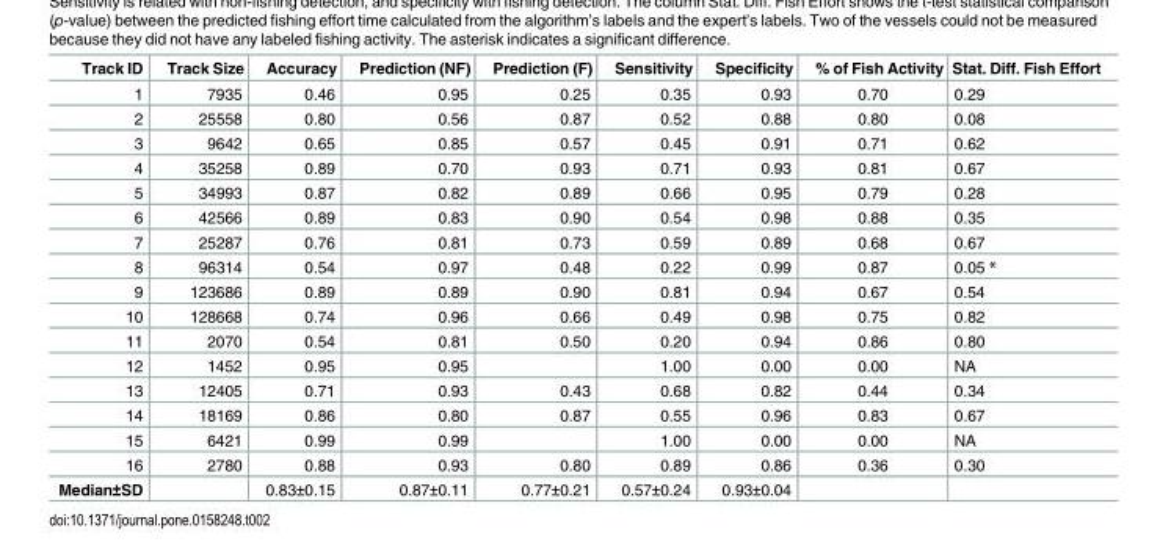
<table><thead><tr><td>Track ID</td><td>Track Size</td><td>Accuracy</td><td>Prediction (NF)</td><td>Prediction (F)</td><td>Sensitivity</td><td>Specificity</td><td>% of Fish Activity</td><td>Stat. Diff. Fish Effort</td></tr></thead><tbody><tr><td>1</td><td>7935</td><td>0.46</td><td>0.95</td><td>0.25</td><td>0.35</td><td>0.93</td><td>0.70</td><td>0.29</td></tr><tr><td>2</td><td>25558</td><td>0.80</td><td>0.56</td><td>0.87</td><td>0.52</td><td>0.88</td><td>0.80</td><td>0.08</td></tr><tr><td>3</td><td>9642</td><td>0.65</td><td>0.85</td><td>0.57</td><td>0.45</td><td>0.91</td><td>0.71</td><td>0.62</td></tr><tr><td>4</td><td>35258</td><td>0.89</td><td>0.70</td><td>0.93</td><td>0.71</td><td>0.93</td><td>0.81</td><td>0.67</td></tr><tr><td>5</td><td>34993</td><td>0.87</td><td>0.82</td><td>0.89</td><td>0.66</td><td>0.95</td><td>0.79</td><td>0.28</td></tr><tr><td>6</td><td>42566</td><td>0.89</td><td>0.83</td><td>0.90</td><td>0.54</td><td>0.98</td><td>0.88</td><td>0.35</td></tr><tr><td>7</td><td>25287</td><td>0.76</td><td>0.81</td><td>0.73</td><td>0.59</td><td>0.89</td><td>0.68</td><td>0.67</td></tr><tr><td>8</td><td>96314</td><td>0.54</td><td>0.97</td><td>0.48</td><td>0.22</td><td>0.99</td><td>0.87</td><td>0.05 *</td></tr><tr><td>9</td><td>123686</td><td>0.89</td><td>0.89</td><td>0.90</td><td>0.81</td><td>0.94</td><td>0.67</td><td>0.54</td></tr><tr><td>10</td><td>128668</td><td>0.74</td><td>0.96</td><td>0.66</td><td>0.49</td><td>0.98</td><td>0.75</td><td>0.82</td></tr><tr><td>11</td><td>2070</td><td>0.54</td><td>0.81</td><td>0.50</td><td>0.20</td><td>0.94</td><td>0.86</td><td>0.80</td></tr><tr><td>12</td><td>1452</td><td>0.95</td><td>0.95</td><td></td><td>1.00</td><td>0.00</td><td>0.00</td><td>NA</td></tr><tr><td>13</td><td>12405</td><td>0.71</td><td>0.93</td><td>0.43</td><td>0.68</td><td>0.82</td><td>0.44</td><td>0.34</td></tr><tr><td>14</td><td>18169</td><td>0.86</td><td>0.80</td><td>0.87</td><td>0.55</td><td>0.96</td><td>0.83</td><td>0.67</td></tr><tr><td>15</td><td>6421</td><td>0.99</td><td>0.99</td><td></td><td>1.00</td><td>0.00</td><td>0.00</td><td>NA</td></tr><tr><td>16</td><td>2780</td><td>0.88</td><td>0.93</td><td>0.80</td><td>0.89</td><td>0.86</td><td>0.36</td><td>0.30</td></tr><tr><td>Median±SD</td><td></td><td>0.83±0.15</td><td>0.87±0.11</td><td>0.77±0.21</td><td>0.57±0.24</td><td>0.93±0.04</td><td></td><td></td></tr></tbody></table>